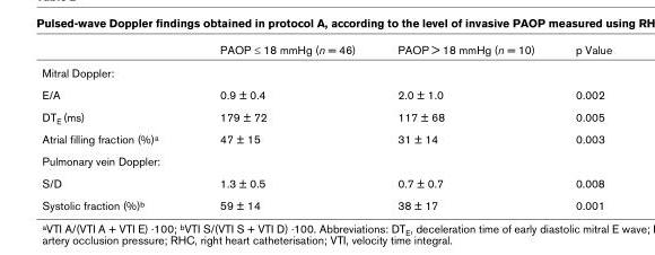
<table><thead><tr><td></td><td>PAOP ≤ 18 mmHg (n = 46)</td><td>PAOP &gt; 18 mmHg (n = 10)</td><td>p Value</td></tr></thead><tbody><tr><td colspan="4">Mitral Doppler:</td></tr><tr><td>E/A</td><td>0.9 ± 0.4</td><td>2.0 ± 1.0</td><td>0.002</td></tr><tr><td>DT<sub>E</sub> (ms)</td><td>179 ± 72</td><td>117 ± 68</td><td>0.005</td></tr><tr><td>Atrial filling fraction (%)<sup>a</sup></td><td>47 ± 15</td><td>31 ± 14</td><td>0.003</td></tr><tr><td colspan="4">Pulmonary vein Doppler:</td></tr><tr><td>S/D</td><td>1.3 ± 0.5</td><td>0.7 ± 0.7</td><td>0.008</td></tr><tr><td>Systolic fraction (%)<sup>b</sup></td><td>59 ± 14</td><td>38 ± 17</td><td>0.001</td></tr></tbody></table>